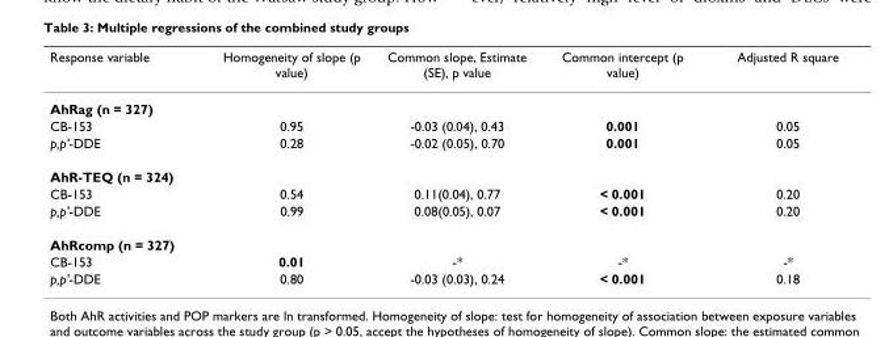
<table><thead><tr><td>Response variable</td><td>Homogeneity of slope (p value)</td><td>Common slope, Estimate (SE), p value</td><td>Common intercept (p value)</td><td>Adjusted R square</td></tr></thead><tbody><tr><td colspan="5">AhRag (n = 327)</td></tr><tr><td>CB-153</td><td>0.95</td><td>-0.03 (0.04), 0.43</td><td>0.001</td><td>0.05</td></tr><tr><td>p,p&#x27;-DDE</td><td>0.28</td><td>-0.02 (0.05), 0.70</td><td>0.001</td><td>0.05</td></tr><tr><td colspan="5">AhR-TEQ (n = 324)</td></tr><tr><td>CB-153</td><td>0.54</td><td>0.11(0.04), 0.77</td><td>&lt; 0.001</td><td>0.20</td></tr><tr><td>p,p&#x27;-DDE</td><td>0.99</td><td>0.08(0.05), 0.07</td><td>&lt; 0.001</td><td>0.20</td></tr><tr><td colspan="5">AhRcomp (n = 327)</td></tr><tr><td>CB-153</td><td>0.01</td><td>-*</td><td>-*</td><td>-*</td></tr><tr><td>p,p&#x27;-DDE</td><td>0.80</td><td>-0.03 (0.03), 0.24</td><td>&lt; 0.001</td><td>0.18</td></tr></tbody></table>